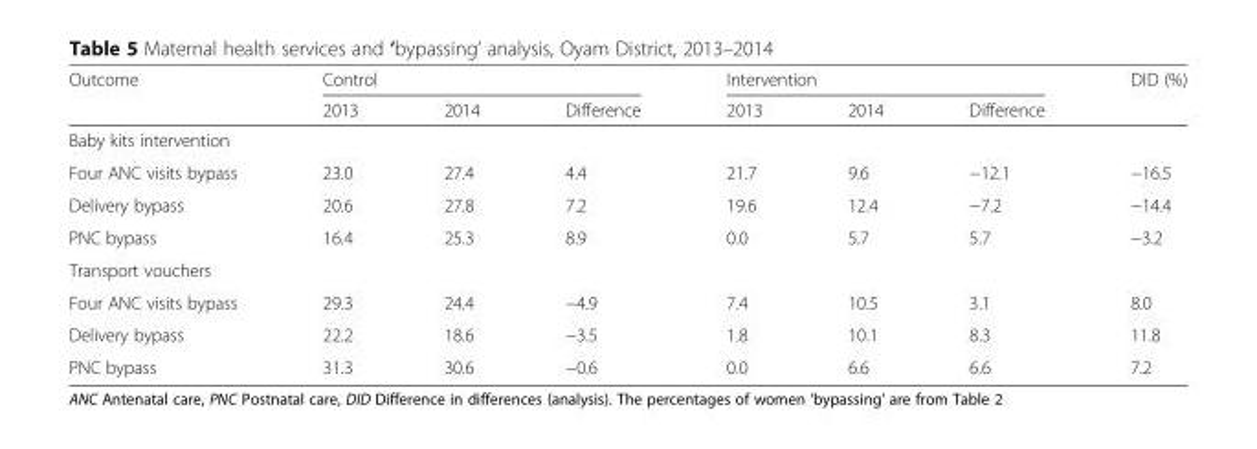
<table><thead><tr><td rowspan="2">Outcome</td><td colspan="3">Control</td><td colspan="3">Intervention</td><td rowspan="2">DID (%)</td></tr><tr><td>2013</td><td>2014</td><td>Difference</td><td>2013</td><td>2014</td><td>Difference</td></tr></thead><tbody><tr><td colspan="8">Baby kits intervention</td></tr><tr><td>Four ANC visits bypass</td><td>23.0</td><td>27.4</td><td>4.4</td><td>21.7</td><td>9.6</td><td>−12.1</td><td>−16.5</td></tr><tr><td>Delivery bypass</td><td>20.6</td><td>27.8</td><td>7.2</td><td>19.6</td><td>12.4</td><td>−7.2</td><td>−14.4</td></tr><tr><td>PNC bypass</td><td>16.4</td><td>25.3</td><td>8.9</td><td>0.0</td><td>5.7</td><td>5.7</td><td>−3.2</td></tr><tr><td colspan="8">Transport vouchers</td></tr><tr><td>Four ANC visits bypass</td><td>29.3</td><td>24.4</td><td>−4.9</td><td>7.4</td><td>10.5</td><td>3.1</td><td>8.0</td></tr><tr><td>Delivery bypass</td><td>22.2</td><td>18.6</td><td>−3.5</td><td>1.8</td><td>10.1</td><td>8.3</td><td>11.8</td></tr><tr><td>PNC bypass</td><td>31.3</td><td>30.6</td><td>−0.6</td><td>0.0</td><td>6.6</td><td>6.6</td><td>7.2</td></tr></tbody></table>